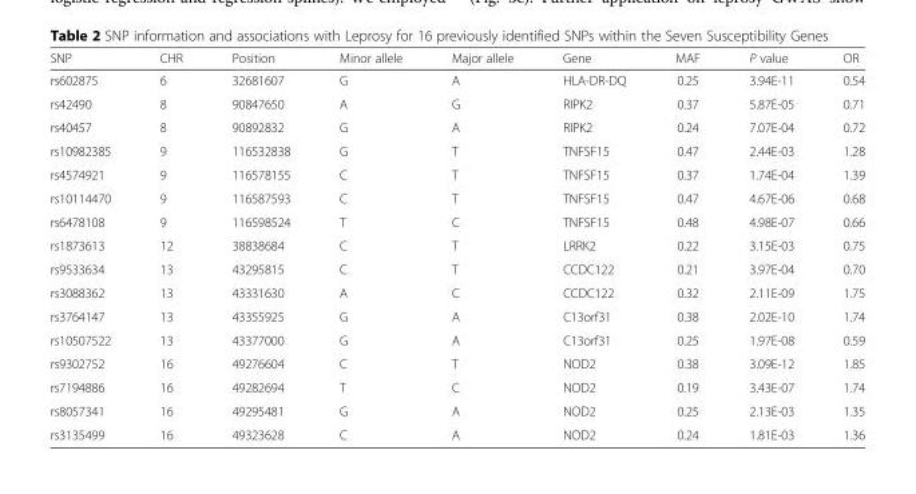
<table><thead><tr><td>SNP</td><td>CHR</td><td>Position</td><td>Minor allele</td><td>Major allele</td><td>Gene</td><td>MAF</td><td>P value</td><td>OR</td></tr></thead><tbody><tr><td>rs602875</td><td>6</td><td>32681607</td><td>G</td><td>A</td><td>HLA-DR-DQ</td><td>0.25</td><td>3.94E-11</td><td>0.54</td></tr><tr><td>rs42490</td><td>8</td><td>90847650</td><td>A</td><td>G</td><td>RIPK2</td><td>0.37</td><td>5.87E-05</td><td>0.71</td></tr><tr><td>rs40457</td><td>8</td><td>90892832</td><td>G</td><td>A</td><td>RIPK2</td><td>0.24</td><td>7.07E-04</td><td>0.72</td></tr><tr><td>rs10982385</td><td>9</td><td>116532838</td><td>G</td><td>T</td><td>TNFSF15</td><td>0.47</td><td>2.44E-03</td><td>1.28</td></tr><tr><td>rs4574921</td><td>9</td><td>116578155</td><td>C</td><td>T</td><td>TNFSF15</td><td>0.37</td><td>1.74E-04</td><td>1.39</td></tr><tr><td>rs10114470</td><td>9</td><td>116587593</td><td>C</td><td>T</td><td>TNFSF15</td><td>0.47</td><td>4.67E-06</td><td>0.68</td></tr><tr><td>rs6478108</td><td>9</td><td>116598524</td><td>T</td><td>C</td><td>TNFSF15</td><td>0.48</td><td>4.98E-07</td><td>0.66</td></tr><tr><td>rs1873613</td><td>12</td><td>38838684</td><td>C</td><td>T</td><td>LRRK2</td><td>0.22</td><td>3.15E-03</td><td>0.75</td></tr><tr><td>rs9533634</td><td>13</td><td>43295815</td><td>C</td><td>T</td><td>CCDC122</td><td>0.21</td><td>3.97E-04</td><td>0.70</td></tr><tr><td>rs3088362</td><td>13</td><td>43331630</td><td>A</td><td>C</td><td>CCDC122</td><td>0.32</td><td>2.11E-09</td><td>1.75</td></tr><tr><td>rs3764147</td><td>13</td><td>43355925</td><td>G</td><td>A</td><td>C13orf31</td><td>0.38</td><td>2.02E-10</td><td>1.74</td></tr><tr><td>rs10507522</td><td>13</td><td>43377000</td><td>G</td><td>A</td><td>C13orf31</td><td>0.25</td><td>1.97E-08</td><td>0.59</td></tr><tr><td>rs9302752</td><td>16</td><td>49276604</td><td>C</td><td>T</td><td>NOD2</td><td>0.38</td><td>3.09E-12</td><td>1.85</td></tr><tr><td>rs7194886</td><td>16</td><td>49282694</td><td>T</td><td>C</td><td>NOD2</td><td>0.19</td><td>3.43E-07</td><td>1.74</td></tr><tr><td>rs8057341</td><td>16</td><td>49295481</td><td>G</td><td>A</td><td>NOD2</td><td>0.25</td><td>2.13E-03</td><td>1.35</td></tr><tr><td>rs3135499</td><td>16</td><td>49323628</td><td>C</td><td>A</td><td>NOD2</td><td>0.24</td><td>1.81E-03</td><td>1.36</td></tr></tbody></table>